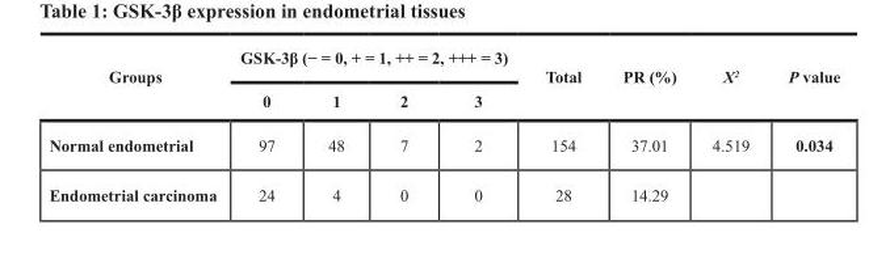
<table><thead><tr><td rowspan="2">Groups</td><td colspan="4">GSK-3β (− = 0, + = 1, ++ = 2, +++ = 3)</td><td rowspan="2">Total</td><td rowspan="2">PR (%)</td><td rowspan="2">X<sup>2</sup></td><td rowspan="2">P value</td></tr><tr><td>0</td><td>1</td><td>2</td><td>3</td></tr></thead><tbody><tr><td>Normal endometrial</td><td>97</td><td>48</td><td>7</td><td>2</td><td>154</td><td>37.01</td><td>4.519</td><td>0.034</td></tr><tr><td>Endometrial carcinoma</td><td>24</td><td>4</td><td>0</td><td>0</td><td>28</td><td>14.29</td><td></td><td></td></tr></tbody></table>